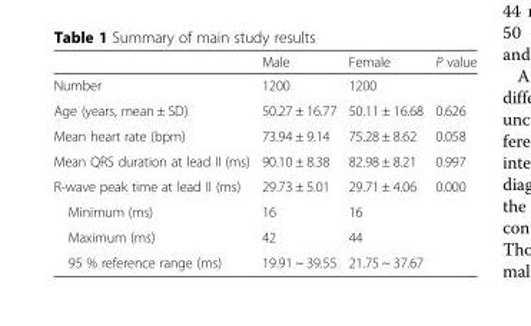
<table><thead><tr><td></td><td>Male</td><td>Female</td><td>P value</td></tr></thead><tbody><tr><td>Number</td><td>1200</td><td>1200</td><td></td></tr><tr><td>Age (years, mean ± SD)</td><td>50.27 ± 16.77</td><td>50.11 ± 16.68</td><td>0.626</td></tr><tr><td>Mean heart rate (bpm)</td><td>73.94 ± 9.14</td><td>75.28 ± 8.62</td><td>0.058</td></tr><tr><td>Mean QRS duration at lead II (ms)</td><td>90.10 ± 8.38</td><td>82.98 ± 8.21</td><td>0.997</td></tr><tr><td>R-wave peak time at lead II (ms)</td><td>29.73 ± 5.01</td><td>29.71 ± 4.06</td><td>0.000</td></tr><tr><td>Minimum (ms)</td><td>16</td><td>16</td><td></td></tr><tr><td>Maximum (ms)</td><td>42</td><td>44</td><td></td></tr><tr><td>95 % reference range (ms)</td><td>19.91 ~ 39.55</td><td>21.75 ~ 37.67</td><td></td></tr></tbody></table>